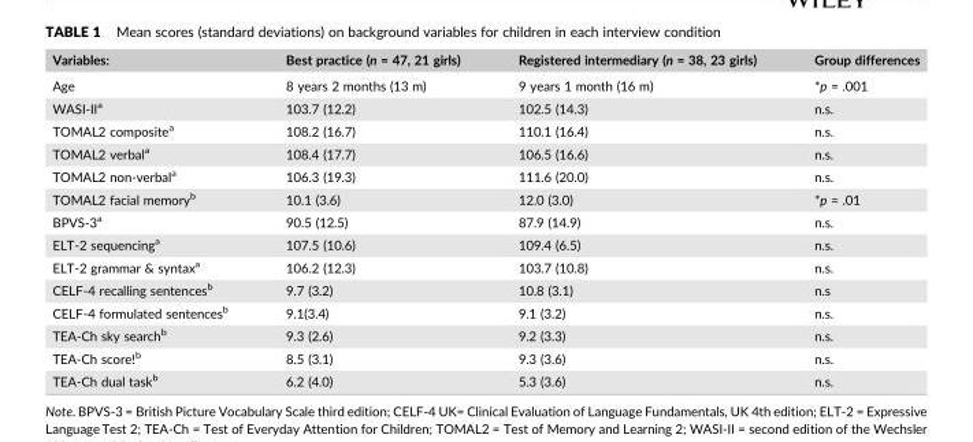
<table><thead><tr><td>Variables:</td><td>Best practice (n = 47, 21 girls)</td><td>Registered intermediary (n = 38, 23 girls)</td><td>Group differences</td></tr></thead><tbody><tr><td>Age</td><td>8 years 2 months (13 m)</td><td>9 years 1 month (16 m)</td><td>*p = .001</td></tr><tr><td>WASI‐II<sup>a</sup></td><td>103.7 (12.2)</td><td>102.5 (14.3)</td><td>n.s.</td></tr><tr><td>TOMAL2 composite<sup>a</sup></td><td>108.2 (16.7)</td><td>110.1 (16.4)</td><td>n.s.</td></tr><tr><td>TOMAL2 verbal<sup>a</sup></td><td>108.4 (17.7)</td><td>106.5 (16.6)</td><td>n.s.</td></tr><tr><td>TOMAL2 non‐verbal<sup>a</sup></td><td>106.3 (19.3)</td><td>111.6 (20.0)</td><td>n.s.</td></tr><tr><td>TOMAL2 facial memory<sup>b</sup></td><td>10.1 (3.6)</td><td>12.0 (3.0)</td><td>*p = .01</td></tr><tr><td>BPVS‐3<sup>a</sup></td><td>90.5 (12.5)</td><td>87.9 (14.9)</td><td>n.s.</td></tr><tr><td>ELT‐2 sequencing<sup>a</sup></td><td>107.5 (10.6)</td><td>109.4 (6.5)</td><td>n.s.</td></tr><tr><td>ELT‐2 grammar &amp; syntax<sup>a</sup></td><td>106.2 (12.3)</td><td>103.7 (10.8)</td><td>n.s.</td></tr><tr><td>CELF‐4 recalling sentences<sup>b</sup></td><td>9.7 (3.2)</td><td>10.8 (3.1)</td><td>n.s</td></tr><tr><td>CELF‐4 formulated sentences<sup>b</sup></td><td>9.1(3.4)</td><td>9.1 (3.2)</td><td>n.s.</td></tr><tr><td>TEA‐Ch sky search<sup>b</sup></td><td>9.3 (2.6)</td><td>9.2 (3.3)</td><td>n.s.</td></tr><tr><td>TEA‐Ch score!<sup>b</sup></td><td>8.5 (3.1)</td><td>9.3 (3.6)</td><td>n.s.</td></tr><tr><td>TEA‐Ch dual task<sup>b</sup></td><td>6.2 (4.0)</td><td>5.3 (3.6)</td><td>n.s.</td></tr></tbody></table>